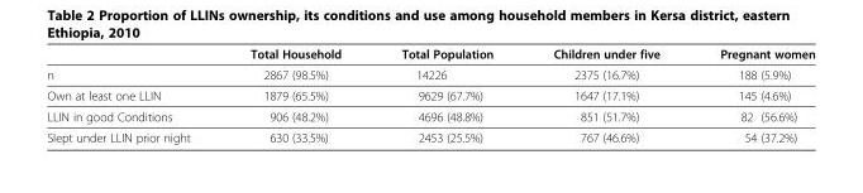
<table><thead><tr><td></td><td>Total Household</td><td>Total Population</td><td>Children under five</td><td>Pregnant women</td></tr></thead><tbody><tr><td>n</td><td>2867 (98.5%)</td><td>14226</td><td>2375 (16.7%)</td><td>188 (5.9%)</td></tr><tr><td>Own at least one LLIN</td><td>1879 (65.5%)</td><td>9629 (67.7%)</td><td>1647 (17.1%)</td><td>145 (4.6%)</td></tr><tr><td>LLIN in good Conditions</td><td>906 (48.2%)</td><td>4696 (48.8%)</td><td>851 (51.7%)</td><td>82 (56.6%)</td></tr><tr><td>Slept under LLIN prior night</td><td>630 (33.5%)</td><td>2453 (25.5%)</td><td>767 (46.6%)</td><td>54 (37.2%)</td></tr></tbody></table>